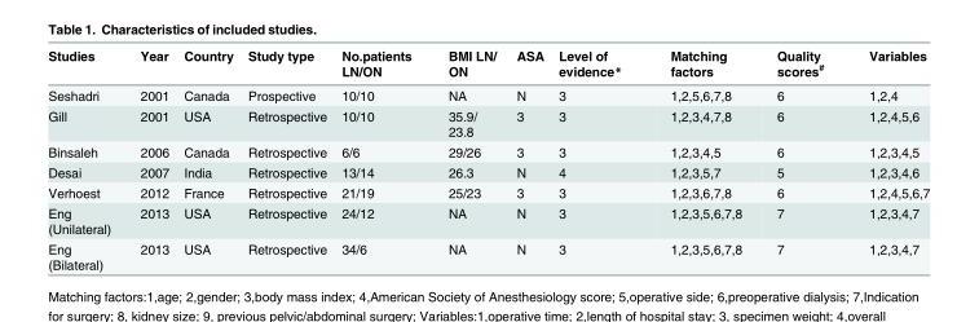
<table><thead><tr><td>Studies</td><td>Year</td><td>Country</td><td>Study type</td><td>No.patients LN/ON</td><td>BMI LN/ ON</td><td>ASA</td><td>Level of evidence*</td><td>Matching factors</td><td>Quality scores<sup>#</sup></td><td>Variables</td></tr></thead><tbody><tr><td>Seshadri</td><td>2001</td><td>Canada</td><td>Prospective</td><td>10/10</td><td>NA</td><td>N</td><td>3</td><td>1,2,5,6,7,8</td><td>6</td><td>1,2,4</td></tr><tr><td>Gill</td><td>2001</td><td>USA</td><td>Retrospective</td><td>10/10</td><td>35.9/ 23.8</td><td>3</td><td>3</td><td>1,2,3,4,7,8</td><td>6</td><td>1,2,4,5,6</td></tr><tr><td>Binsaleh</td><td>2006</td><td>Canada</td><td>Retrospective</td><td>6/6</td><td>29/26</td><td>3</td><td>3</td><td>1,2,3,4,5</td><td>6</td><td>1,2,3,4,5</td></tr><tr><td>Desai</td><td>2007</td><td>India</td><td>Retrospective</td><td>13/14</td><td>26.3</td><td>N</td><td>4</td><td>1,2,3,5,7</td><td>5</td><td>1,2,3,4,6</td></tr><tr><td>Verhoest</td><td>2012</td><td>France</td><td>Retrospective</td><td>21/19</td><td>25/23</td><td>3</td><td>3</td><td>1,2,3,6,7,8</td><td>6</td><td>1,2,4,5,6,7</td></tr><tr><td>Eng (Unilateral)</td><td>2013</td><td>USA</td><td>Retrospective</td><td>24/12</td><td>NA</td><td>N</td><td>3</td><td>1,2,3,5,6,7,8</td><td>7</td><td>1,2,3,4,7</td></tr><tr><td>Eng (Bilateral)</td><td>2013</td><td>USA</td><td>Retrospective</td><td>34/6</td><td>NA</td><td>N</td><td>3</td><td>1,2,3,5,6,7,8</td><td>7</td><td>1,2,3,4,7</td></tr></tbody></table>